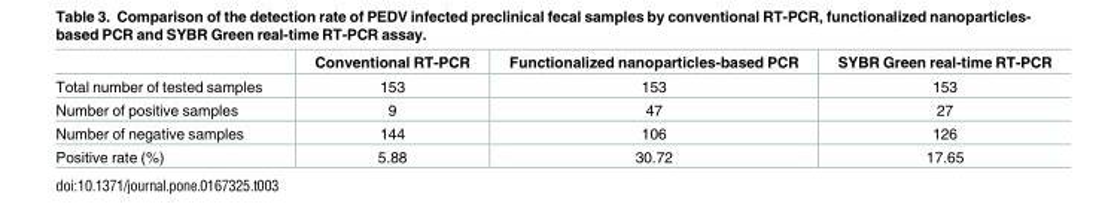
<table><thead><tr><td></td><td>Conventional RT-PCR</td><td>Functionalized nanoparticles-based PCR</td><td>SYBR Green real-time RT-PCR</td></tr></thead><tbody><tr><td>Total number of tested samples</td><td>153</td><td>153</td><td>153</td></tr><tr><td>Number of positive samples</td><td>9</td><td>47</td><td>27</td></tr><tr><td>Number of negative samples</td><td>144</td><td>106</td><td>126</td></tr><tr><td>Positive rate (%)</td><td>5.88</td><td>30.72</td><td>17.65</td></tr></tbody></table>